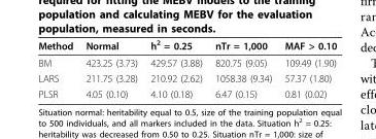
<table><thead><tr><td>Method</td><td>Normal</td><td>h<sup>2</sup> = 0.25</td><td>nTr = 1,000</td><td>MAF &gt; 0.10</td></tr></thead><tbody><tr><td>BM</td><td>423.25 (3.73)</td><td>429.57 (3.88)</td><td>820.75 (9.05)</td><td>109.49 (1.90)</td></tr><tr><td>LARS</td><td>211.75 (3.28)</td><td>210.92 (2.62)</td><td>1058.38 (9.34)</td><td>57.37 (1.80)</td></tr><tr><td>PLSR</td><td>4.05 (0.10)</td><td>4.10 (0.18)</td><td>6.47 (0.15)</td><td>0.81 (0.02)</td></tr></tbody></table>